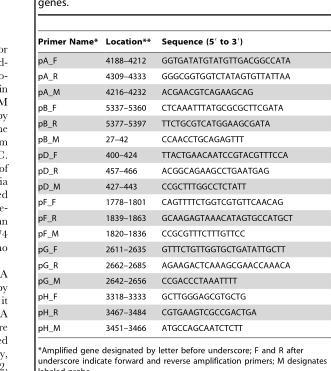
<table><thead><tr><td>Primer Name*</td><td>Location**</td><td>Sequence (5′ to 3′)</td></tr></thead><tbody><tr><td>pA_F</td><td>4188–4212</td><td>GGTGATATGTATGTTGACGGCCATA</td></tr><tr><td>pA_R</td><td>4309–4333</td><td>GGGCGGTGGTCTATAGTGTTATTAA</td></tr><tr><td>pA_M</td><td>4216–4232</td><td>ACGAACGTCAGAAGCAG</td></tr><tr><td>pB_F</td><td>5337–5360</td><td>CTCAAATTTATGCGCGCTTCGATA</td></tr><tr><td>pB_R</td><td>5377–5397</td><td>TTCTGCGTCATGGAAGCGATA</td></tr><tr><td>pB_M</td><td>27–42</td><td>CCAACCTGCAGAGTTT</td></tr><tr><td>pD_F</td><td>400–424</td><td>TTACTGAACAATCCGTACGTTTCCA</td></tr><tr><td>pD_R</td><td>457–466</td><td>ACGGCAGAAGCCTGAATGAG</td></tr><tr><td>pD_M</td><td>427–443</td><td>CCGCTTTGGCCTCTATT</td></tr><tr><td>pF_F</td><td>1778–1801</td><td>CAGTTTTCTGGTCGTGTTCAACAG</td></tr><tr><td>pF_R</td><td>1839–1863</td><td>GCAAGAGTAAACATAGTGCCATGCT</td></tr><tr><td>pF_M</td><td>1820–1836</td><td>CCGCGTTTCTTTGTTCC</td></tr><tr><td>pG_F</td><td>2611–2635</td><td>GTTTCTGTTGGTGCTGATATTGCTT</td></tr><tr><td>pG_R</td><td>2662–2685</td><td>AGAAGACTCAAAGCGAACCAAACA</td></tr><tr><td>pG_M</td><td>2642–2656</td><td>CCGACCCTAAATTTT</td></tr><tr><td>pH_F</td><td>3318–3333</td><td>GCTTGGGAGCGTGCTG</td></tr><tr><td>pH_R</td><td>3467–3484</td><td>CGTGAAGTCGCCGACTGA</td></tr><tr><td>pH_M</td><td>3451–3466</td><td>ATGCCAGCAATCTCTT</td></tr></tbody></table>